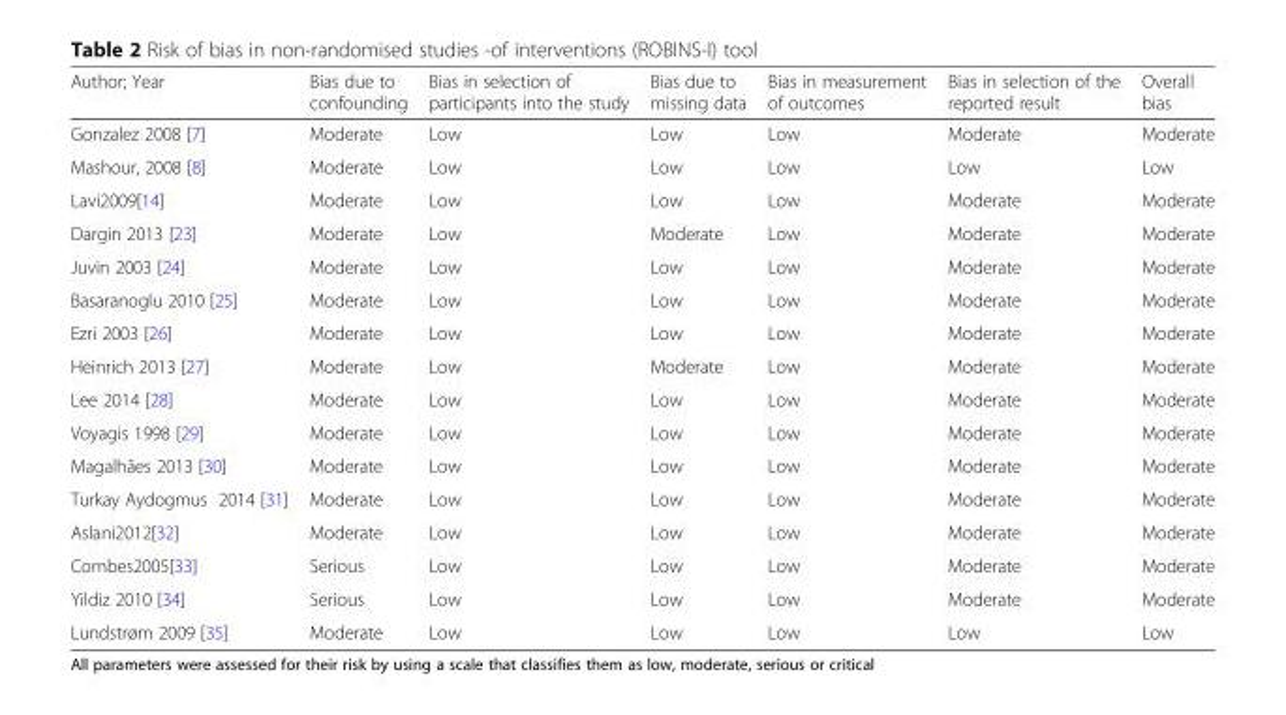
<table><thead><tr><td>Author; Year</td><td>Bias due to confounding</td><td>Bias in selection of participants into the study</td><td>Bias due to missing data</td><td>Bias in measurement of outcomes</td><td>Bias in selection of the reported result</td><td>Overall bias</td></tr></thead><tbody><tr><td>Gonzalez 2008 [7]</td><td>Moderate</td><td>Low</td><td>Low</td><td>Low</td><td>Moderate</td><td>Moderate</td></tr><tr><td>Mashour, 2008 [8]</td><td>Moderate</td><td>Low</td><td>Low</td><td>Low</td><td>Low</td><td>Low</td></tr><tr><td>Lavi2009[14]</td><td>Moderate</td><td>Low</td><td>Low</td><td>Low</td><td>Moderate</td><td>Moderate</td></tr><tr><td>Dargin 2013 [23]</td><td>Moderate</td><td>Low</td><td>Moderate</td><td>Low</td><td>Moderate</td><td>Moderate</td></tr><tr><td>Juvin 2003 [24]</td><td>Moderate</td><td>Low</td><td>Low</td><td>Low</td><td>Moderate</td><td>Moderate</td></tr><tr><td>Basaranoglu 2010 [25]</td><td>Moderate</td><td>Low</td><td>Low</td><td>Low</td><td>Moderate</td><td>Moderate</td></tr><tr><td>Ezri 2003 [26]</td><td>Moderate</td><td>Low</td><td>Low</td><td>Low</td><td>Moderate</td><td>Moderate</td></tr><tr><td>Heinrich 2013 [27]</td><td>Moderate</td><td>Low</td><td>Moderate</td><td>Low</td><td>Moderate</td><td>Moderate</td></tr><tr><td>Lee 2014 [28]</td><td>Moderate</td><td>Low</td><td>Low</td><td>Low</td><td>Moderate</td><td>Moderate</td></tr><tr><td>Voyagis 1998 [29]</td><td>Moderate</td><td>Low</td><td>Low</td><td>Low</td><td>Moderate</td><td>Moderate</td></tr><tr><td>Magalhães 2013 [30]</td><td>Moderate</td><td>Low</td><td>Low</td><td>Low</td><td>Moderate</td><td>Moderate</td></tr><tr><td>Turkay Aydogmus 2014 [31]</td><td>Moderate</td><td>Low</td><td>Low</td><td>Low</td><td>Moderate</td><td>Moderate</td></tr><tr><td>Aslani2012[32]</td><td>Moderate</td><td>Low</td><td>Low</td><td>Low</td><td>Moderate</td><td>Moderate</td></tr><tr><td>Combes2005[33]</td><td>Serious</td><td>Low</td><td>Low</td><td>Low</td><td>Moderate</td><td>Moderate</td></tr><tr><td>Yildiz 2010 [34]</td><td>Serious</td><td>Low</td><td>Low</td><td>Low</td><td>Moderate</td><td>Moderate</td></tr><tr><td>Lundstrøm 2009 [35]</td><td>Moderate</td><td>Low</td><td>Low</td><td>Low</td><td>Low</td><td>Low</td></tr></tbody></table>